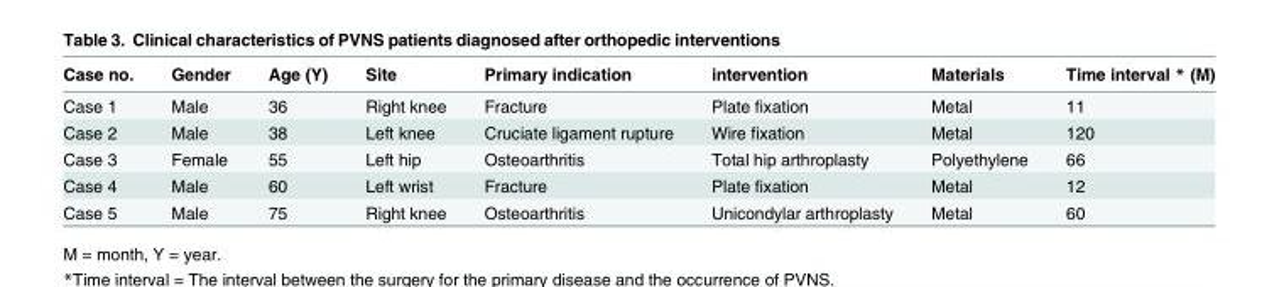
<table><thead><tr><td>Case no.</td><td>Gender</td><td>Age (Y)</td><td>Site</td><td>Primary indication</td><td>intervention</td><td>Materials</td><td>Time interval * (M)</td></tr></thead><tbody><tr><td>Case 1</td><td>Male</td><td>36</td><td>Right knee</td><td>Fracture</td><td>Plate fixation</td><td>Metal</td><td>11</td></tr><tr><td>Case 2</td><td>Male</td><td>38</td><td>Left knee</td><td>Cruciate ligament rupture</td><td>Wire fixation</td><td>Metal</td><td>120</td></tr><tr><td>Case 3</td><td>Female</td><td>55</td><td>Left hip</td><td>Osteoarthritis</td><td>Total hip arthroplasty</td><td>Polyethylene</td><td>66</td></tr><tr><td>Case 4</td><td>Male</td><td>60</td><td>Left wrist</td><td>Fracture</td><td>Plate fixation</td><td>Metal</td><td>12</td></tr><tr><td>Case 5</td><td>Male</td><td>75</td><td>Right knee</td><td>Osteoarthritis</td><td>Unicondylar arthroplasty</td><td>Metal</td><td>60</td></tr></tbody></table>